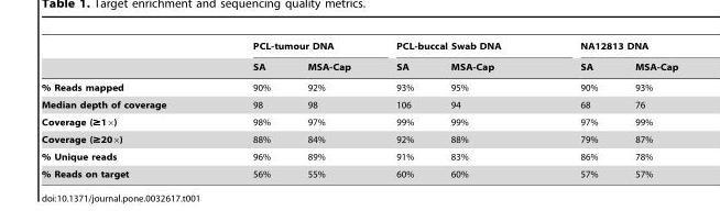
<table><thead><tr><td rowspan="2"></td><td colspan="2">PCL-tumour DNA</td><td colspan="2">PCL-buccal Swab DNA</td><td colspan="2">NA12813 DNA</td></tr><tr><td>SA</td><td>MSA-Cap</td><td>SA</td><td>MSA-Cap</td><td>SA</td><td>MSA-Cap</td></tr></thead><tbody><tr><td>% Reads mapped</td><td>90%</td><td>92%</td><td>93%</td><td>95%</td><td>90%</td><td>93%</td></tr><tr><td>Median depth of coverage</td><td>98</td><td>98</td><td>106</td><td>94</td><td>68</td><td>76</td></tr><tr><td>Coverage (≥1×)</td><td>98%</td><td>97%</td><td>99%</td><td>99%</td><td>97%</td><td>99%</td></tr><tr><td>Coverage (≥20×)</td><td>88%</td><td>84%</td><td>92%</td><td>88%</td><td>79%</td><td>87%</td></tr><tr><td>% Unique reads</td><td>96%</td><td>89%</td><td>91%</td><td>83%</td><td>86%</td><td>78%</td></tr><tr><td>% Reads on target</td><td>56%</td><td>55%</td><td>60%</td><td>60%</td><td>57%</td><td>57%</td></tr></tbody></table>